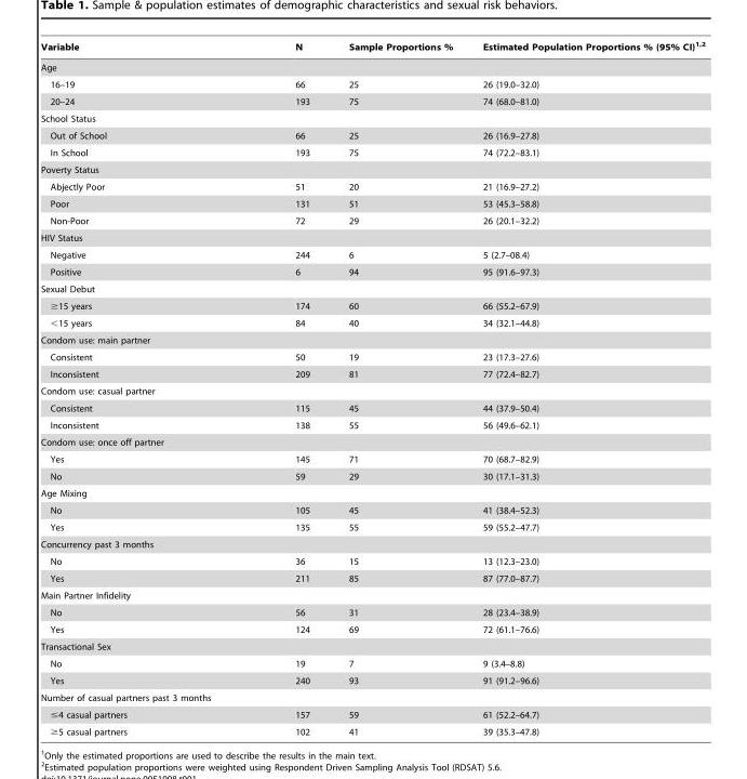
<table><thead><tr><td>Variable</td><td>N</td><td>Sample Proportions %</td><td>Estimated Population Proportions % (95% CI)<sup>1,2</sup></td></tr></thead><tbody><tr><td colspan="4">Age</td></tr><tr><td>16–19</td><td>66</td><td>25</td><td>26 (19.0–32.0)</td></tr><tr><td>20–24</td><td>193</td><td>75</td><td>74 (68.0–81.0)</td></tr><tr><td colspan="4">School Status</td></tr><tr><td>Out of School</td><td>66</td><td>25</td><td>26 (16.9–27.8)</td></tr><tr><td>In School</td><td>193</td><td>75</td><td>74 (72.2–83.1)</td></tr><tr><td colspan="4">Poverty Status</td></tr><tr><td>Abjectly Poor</td><td>51</td><td>20</td><td>21 (16.9–27.2)</td></tr><tr><td>Poor</td><td>131</td><td>51</td><td>53 (45.3–58.8)</td></tr><tr><td>Non-Poor</td><td>72</td><td>29</td><td>26 (20.1–32.2)</td></tr><tr><td colspan="4">HIV Status</td></tr><tr><td>Negative</td><td>244</td><td>6</td><td>5 (2.7–08.4)</td></tr><tr><td>Positive</td><td>6</td><td>94</td><td>95 (91.6–97.3)</td></tr><tr><td colspan="4">Sexual Debut</td></tr><tr><td>≥15 years</td><td>174</td><td>60</td><td>66 (55.2–67.9)</td></tr><tr><td>&lt;15 years</td><td>84</td><td>40</td><td>34 (32.1–44.8)</td></tr><tr><td colspan="4">Condom use: main partner</td></tr><tr><td>Consistent</td><td>50</td><td>19</td><td>23 (17.3–27.6)</td></tr><tr><td>Inconsistent</td><td>209</td><td>81</td><td>77 (72.4–82.7)</td></tr><tr><td colspan="4">Condom use: casual partner</td></tr><tr><td>Consistent</td><td>115</td><td>45</td><td>44 (37.9–50.4)</td></tr><tr><td>Inconsistent</td><td>138</td><td>55</td><td>56 (49.6–62.1)</td></tr><tr><td colspan="4">Condom use: once off partner</td></tr><tr><td>Yes</td><td>145</td><td>71</td><td>70 (68.7–82.9)</td></tr><tr><td>No</td><td>59</td><td>29</td><td>30 (17.1–31.3)</td></tr><tr><td colspan="4">Age Mixing</td></tr><tr><td>No</td><td>105</td><td>45</td><td>41 (38.4–52.3)</td></tr><tr><td>Yes</td><td>135</td><td>55</td><td>59 (55.2–47.7)</td></tr><tr><td colspan="4">Concurrency past 3 months</td></tr><tr><td>No</td><td>36</td><td>15</td><td>13 (12.3–23.0)</td></tr><tr><td>Yes</td><td>211</td><td>85</td><td>87 (77.0–87.7)</td></tr><tr><td colspan="4">Main Partner Infidelity</td></tr><tr><td>No</td><td>56</td><td>31</td><td>28 (23.4–38.9)</td></tr><tr><td>Yes</td><td>124</td><td>69</td><td>72 (61.1–76.6)</td></tr><tr><td colspan="4">Transactional Sex</td></tr><tr><td>No</td><td>19</td><td>7</td><td>9 (3.4–8.8)</td></tr><tr><td>Yes</td><td>240</td><td>93</td><td>91 (91.2–96.6)</td></tr><tr><td colspan="4">Number of casual partners past 3 months</td></tr><tr><td>≤4 casual partners</td><td>157</td><td>59</td><td>61 (52.2–64.7)</td></tr><tr><td>≥5 casual partners</td><td>102</td><td>41</td><td>39 (35.3–47.8)</td></tr></tbody></table>